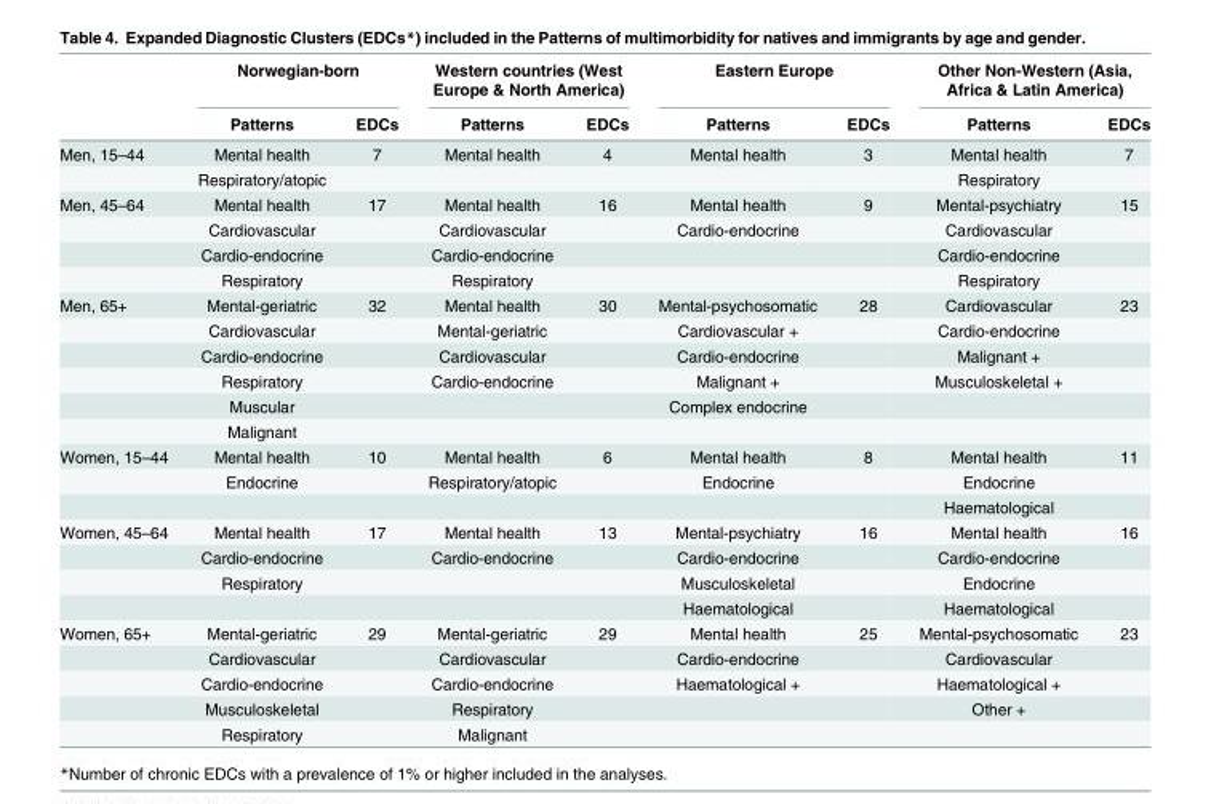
<table><thead><tr><td rowspan="2"></td><td colspan="2">Norwegian-born</td><td colspan="2">Western countries (West Europe &amp; North America)</td><td colspan="2">Eastern Europe</td><td colspan="2">Other Non-Western (Asia, Africa &amp; Latin America)</td></tr><tr><td>Patterns</td><td>EDCs</td><td>Patterns</td><td>EDCs</td><td>Patterns</td><td>EDCs</td><td>Patterns</td><td>EDCs</td></tr></thead><tbody><tr><td rowspan="2">Men, 15–44</td><td>Mental health</td><td>7</td><td>Mental health</td><td>4</td><td>Mental health</td><td>3</td><td>Mental health</td><td>7</td></tr><tr><td>Respiratory/atopic</td><td></td><td></td><td></td><td></td><td></td><td>Respiratory</td><td></td></tr><tr><td rowspan="4">Men, 45–64</td><td>Mental health</td><td>17</td><td>Mental health</td><td>16</td><td>Mental health</td><td>9</td><td>Mental-psychiatry</td><td>15</td></tr><tr><td>Cardiovascular</td><td></td><td>Cardiovascular</td><td></td><td>Cardio-endocrine</td><td></td><td>Cardiovascular</td><td></td></tr><tr><td>Cardio-endocrine</td><td></td><td>Cardio-endocrine</td><td></td><td></td><td></td><td>Cardio-endocrine</td><td></td></tr><tr><td>Respiratory</td><td></td><td>Respiratory</td><td></td><td></td><td></td><td>Respiratory</td><td></td></tr><tr><td rowspan="6">Men, 65+</td><td>Mental-geriatric</td><td>32</td><td>Mental health</td><td>30</td><td>Mental-psychosomatic</td><td>28</td><td>Cardiovascular</td><td>23</td></tr><tr><td>Cardiovascular</td><td></td><td>Mental-geriatric</td><td></td><td>Cardiovascular +</td><td></td><td>Cardio-endocrine</td><td></td></tr><tr><td>Cardio-endocrine</td><td></td><td>Cardiovascular</td><td></td><td>Cardio-endocrine</td><td></td><td>Malignant +</td><td></td></tr><tr><td>Respiratory</td><td></td><td>Cardio-endocrine</td><td></td><td>Malignant +</td><td></td><td>Musculoskeletal +</td><td></td></tr><tr><td>Muscular</td><td></td><td></td><td></td><td>Complex endocrine</td><td></td><td></td><td></td></tr><tr><td>Malignant</td><td></td><td></td><td></td><td></td><td></td><td></td><td></td></tr><tr><td rowspan="3">Women, 15–44</td><td>Mental health</td><td>10</td><td>Mental health</td><td>6</td><td>Mental health</td><td>8</td><td>Mental health</td><td>11</td></tr><tr><td>Endocrine</td><td></td><td>Respiratory/atopic</td><td></td><td>Endocrine</td><td></td><td>Endocrine</td><td></td></tr><tr><td></td><td></td><td></td><td></td><td></td><td></td><td>Haematological</td><td></td></tr><tr><td rowspan="4">Women, 45–64</td><td>Mental health</td><td>17</td><td>Mental health</td><td>13</td><td>Mental-psychiatry</td><td>16</td><td>Mental health</td><td>16</td></tr><tr><td>Cardio-endocrine</td><td></td><td>Cardio-endocrine</td><td></td><td>Cardio-endocrine</td><td></td><td>Cardio-endocrine</td><td></td></tr><tr><td>Respiratory</td><td></td><td></td><td></td><td>Musculoskeletal</td><td></td><td>Endocrine</td><td></td></tr><tr><td></td><td></td><td></td><td></td><td>Haematological</td><td></td><td>Haematological</td><td></td></tr><tr><td rowspan="5">Women, 65+</td><td>Mental-geriatric</td><td>29</td><td>Mental-geriatric</td><td>29</td><td>Mental health</td><td>25</td><td>Mental-psychosomatic</td><td>23</td></tr><tr><td>Cardiovascular</td><td></td><td>Cardiovascular</td><td></td><td>Cardio-endocrine</td><td></td><td>Cardiovascular</td><td></td></tr><tr><td>Cardio-endocrine</td><td></td><td>Cardio-endocrine</td><td></td><td>Haematological +</td><td></td><td>Haematological +</td><td></td></tr><tr><td>Musculoskeletal</td><td></td><td>Respiratory</td><td></td><td></td><td></td><td>Other +</td><td></td></tr><tr><td>Respiratory</td><td></td><td>Malignant</td><td></td><td></td><td></td><td></td><td></td></tr></tbody></table>